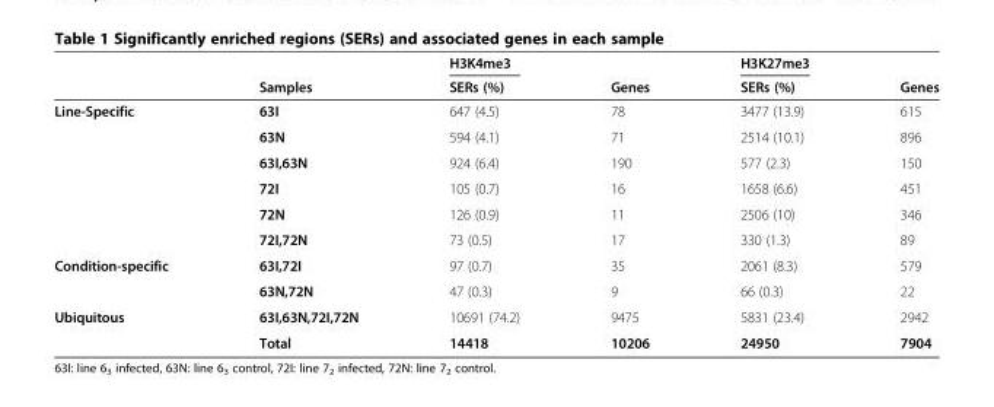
<table><thead><tr><td rowspan="2"></td><td rowspan="2">Samples</td><td rowspan="2">H3K4me3 SERs (%)</td><td rowspan="2">Genes</td><td rowspan="2">H3K27me3 SERs (%)</td><td rowspan="2">Genes</td></tr><tr></tr></thead><tbody><tr><td rowspan="6">Line-Specific</td><td>63I</td><td>647 (4.5)</td><td>78</td><td>3477 (13.9)</td><td>615</td></tr><tr><td>63N</td><td>594 (4.1)</td><td>71</td><td>2514 (10.1)</td><td>896</td></tr><tr><td>63I,63N</td><td>924 (6.4)</td><td>190</td><td>577 (2.3)</td><td>150</td></tr><tr><td>72I</td><td>105 (0.7)</td><td>16</td><td>1658 (6.6)</td><td>451</td></tr><tr><td>72N</td><td>126 (0.9)</td><td>11</td><td>2506 (10)</td><td>346</td></tr><tr><td>72I,72N</td><td>73 (0.5)</td><td>17</td><td>330 (1.3)</td><td>89</td></tr><tr><td rowspan="2">Condition-specific</td><td>63I,72I</td><td>97 (0.7)</td><td>35</td><td>2061 (8.3)</td><td>579</td></tr><tr><td>63N,72N</td><td>47 (0.3)</td><td>9</td><td>66 (0.3)</td><td>22</td></tr><tr><td rowspan="2">Ubiquitous</td><td>63I,63N,72I,72N</td><td>10691 (74.2)</td><td>9475</td><td>5831 (23.4)</td><td>2942</td></tr><tr><td>Total</td><td>14418</td><td>10206</td><td>24950</td><td>7904</td></tr></tbody></table>